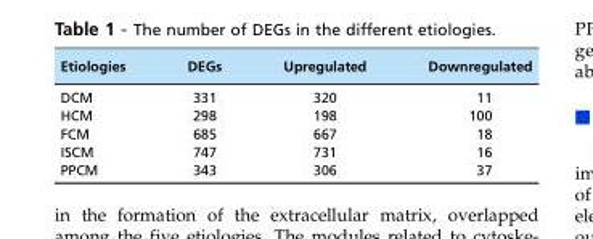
<table><thead><tr><td>Etiologies</td><td>DEGs</td><td>Upregulated</td><td>Downregulated</td></tr></thead><tbody><tr><td>DCM</td><td>331</td><td>320</td><td>11</td></tr><tr><td>HCM</td><td>298</td><td>198</td><td>100</td></tr><tr><td>FCM</td><td>685</td><td>667</td><td>18</td></tr><tr><td>ISCM</td><td>747</td><td>731</td><td>16</td></tr><tr><td>PPCM</td><td>343</td><td>306</td><td>37</td></tr></tbody></table>